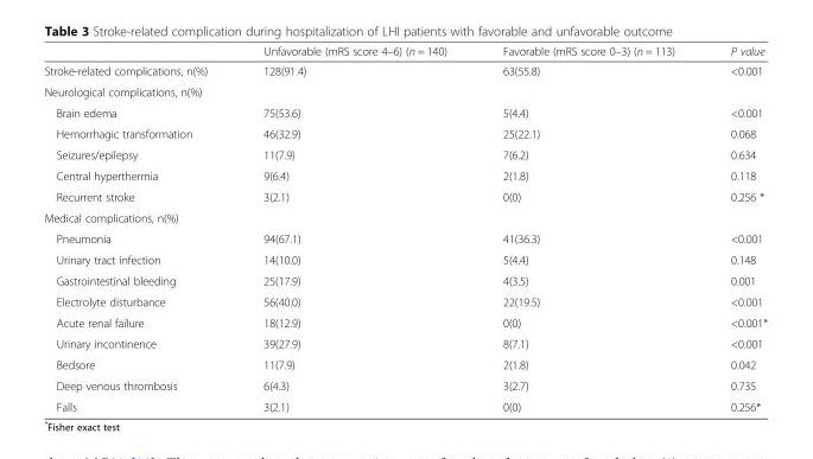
<table><thead><tr><td></td><td>Unfavorable (mRS score 4–6) (n = 140)</td><td>Favorable (mRS score 0–3) (n = 113)</td><td>P value</td></tr></thead><tbody><tr><td>Stroke-related complications, n(%)</td><td>128(91.4)</td><td>63(55.8)</td><td>&lt;0.001</td></tr><tr><td colspan="4">Neurological complications, n(%)</td></tr><tr><td>Brain edema</td><td>75(53.6)</td><td>5(4.4)</td><td>&lt;0.001</td></tr><tr><td>Hemorrhagic transformation</td><td>46(32.9)</td><td>25(22.1)</td><td>0.068</td></tr><tr><td>Seizures/epilepsy</td><td>11(7.9)</td><td>7(6.2)</td><td>0.634</td></tr><tr><td>Central hyperthermia</td><td>9(6.4)</td><td>2(1.8)</td><td>0.118</td></tr><tr><td>Recurrent stroke</td><td>3(2.1)</td><td>0(0)</td><td>0.256 *</td></tr><tr><td colspan="4">Medical complications, n(%)</td></tr><tr><td>Pneumonia</td><td>94(67.1)</td><td>41(36.3)</td><td>&lt;0.001</td></tr><tr><td>Urinary tract infection</td><td>14(10.0)</td><td>5(4.4)</td><td>0.148</td></tr><tr><td>Gastrointestinal bleeding</td><td>25(17.9)</td><td>4(3.5)</td><td>0.001</td></tr><tr><td>Electrolyte disturbance</td><td>56(40.0)</td><td>22(19.5)</td><td>&lt;0.001</td></tr><tr><td>Acute renal failure</td><td>18(12.9)</td><td>0(0)</td><td>&lt;0.001*</td></tr><tr><td>Urinary incontinence</td><td>39(27.9)</td><td>8(7.1)</td><td>&lt;0.001</td></tr><tr><td>Bedsore</td><td>11(7.9)</td><td>2(1.8)</td><td>0.042</td></tr><tr><td>Deep venous thrombosis</td><td>6(4.3)</td><td>3(2.7)</td><td>0.735</td></tr><tr><td>Falls</td><td>3(2.1)</td><td>0(0)</td><td>0.256*</td></tr></tbody></table>